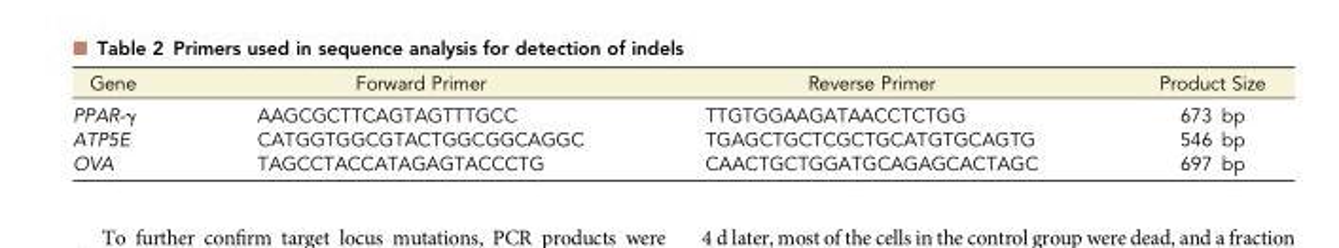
<table><thead><tr><td>Gene</td><td>Forward Primer</td><td>Reverse Primer</td><td>Product Size</td></tr></thead><tbody><tr><td>PPAR-γ</td><td>AAGCGCTTCAGTAGTTTGCC</td><td>TTGTGGAAGATAACCTCTGG</td><td>673 bp</td></tr><tr><td>ATP5E</td><td>CATGGTGGCGTACTGGCGGCAGGC</td><td>TGAGCTGCTCGCTGCATGTGCAGTG</td><td>546 bp</td></tr><tr><td>OVA</td><td>TAGCCTACCATAGAGTACCCTG</td><td>CAACTGCTGGATGCAGAGCACTAGC</td><td>697 bp</td></tr></tbody></table>